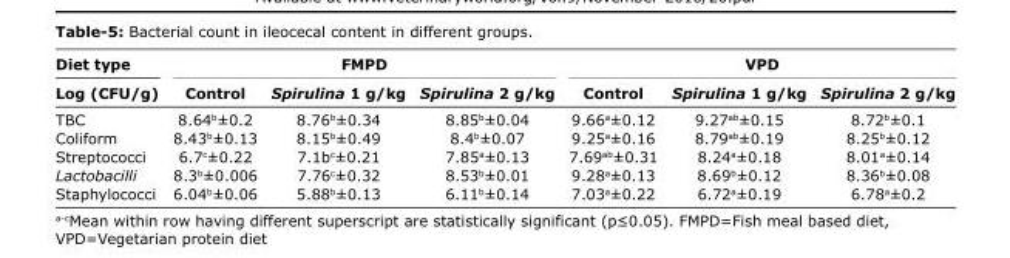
<table><thead><tr><td rowspan="2">Diet type Log (CFU/g)</td><td colspan="3">FMPD</td><td colspan="3">VPD</td></tr><tr><td>Control</td><td>Spirulina 1 g/kg</td><td>Spirulina 2 g/kg</td><td>Control</td><td>Spirulina 1 g/kg</td><td>Spirulina 2 g/kg</td></tr></thead><tbody><tr><td>TBC</td><td>8.64<sup>b</sup>±0.2</td><td>8.76<sup>b</sup>±0.34</td><td>8.85<sup>b</sup>±0.04</td><td>9.66<sup>a</sup>±0.12</td><td>9.27<sup>ab</sup>±0.15</td><td>8.72<sup>b</sup>±0.1</td></tr><tr><td>Coliform</td><td>8.43<sup>b</sup>±0.13</td><td>8.15<sup>b</sup>±0.49</td><td>8.4<sup>b</sup>±0.07</td><td>9.25<sup>a</sup>±0.16</td><td>8.79<sup>ab</sup>±0.19</td><td>8.25<sup>b</sup>±0.12</td></tr><tr><td>Streptococci</td><td>6.7<sup>c</sup>±0.22</td><td>7.1b<sup>c</sup>±0.21</td><td>7.85<sup>a</sup>±0.13</td><td>7.69<sup>ab</sup>±0.31</td><td>8.24<sup>a</sup>±0.18</td><td>8.01<sup>a</sup>±0.14</td></tr><tr><td>Lactobacilli</td><td>8.3<sup>b</sup>±0.006</td><td>7.76<sup>c</sup>±0.32</td><td>8.53<sup>b</sup>±0.01</td><td>9.28<sup>a</sup>±0.13</td><td>8.69<sup>b</sup>±0.12</td><td>8.36<sup>b</sup>±0.08</td></tr><tr><td>Staphylococci</td><td>6.04<sup>b</sup>±0.06</td><td>5.88<sup>b</sup>±0.13</td><td>6.11<sup>b</sup>±0.14</td><td>7.03<sup>a</sup>±0.22</td><td>6.72<sup>a</sup>±0.19</td><td>6.78<sup>a</sup>±0.2</td></tr></tbody></table>